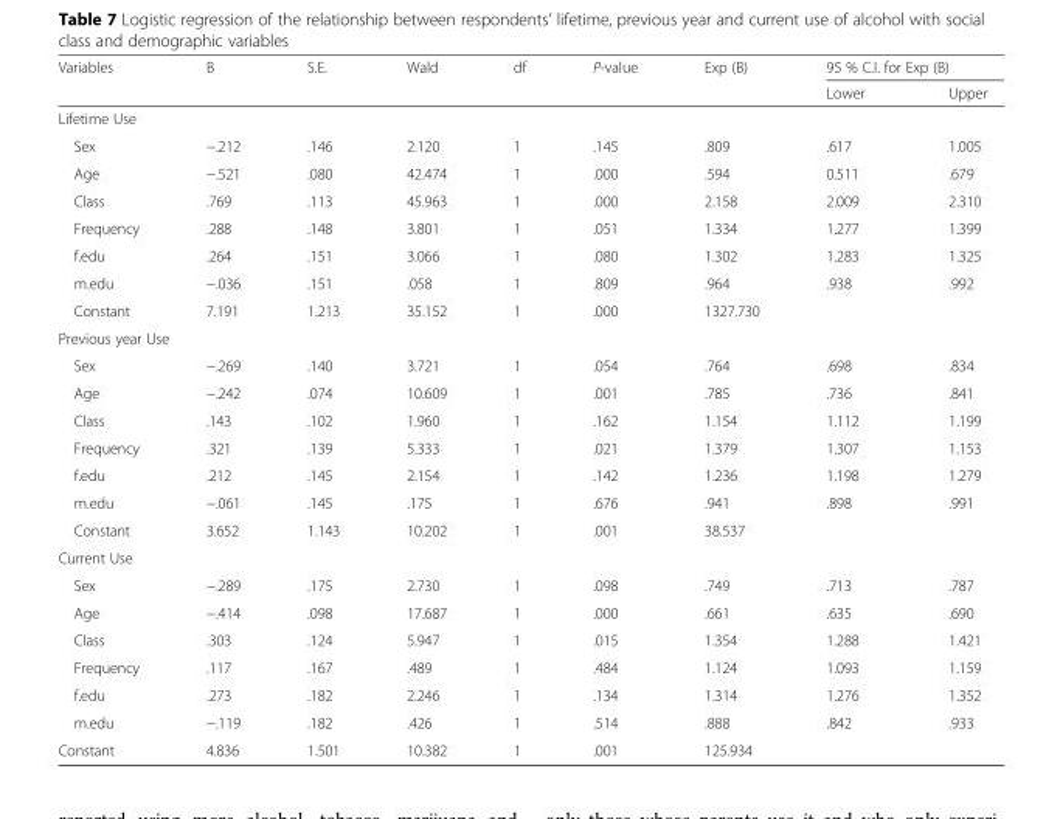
<table><thead><tr><td rowspan="2">Variables</td><td rowspan="2">B</td><td rowspan="2">S.E.</td><td rowspan="2">Wald</td><td rowspan="2">df</td><td rowspan="2">P-value</td><td rowspan="2">Exp (B)</td><td colspan="2">95 % C.I. for Exp (B)</td></tr><tr><td>Lower</td><td>Upper</td></tr></thead><tbody><tr><td colspan="9">Lifetime Use</td></tr><tr><td>Sex</td><td>−.212</td><td>.146</td><td>2.120</td><td>1</td><td>.145</td><td>.809</td><td>.617</td><td>1.005</td></tr><tr><td>Age</td><td>−.521</td><td>.080</td><td>42.474</td><td>1</td><td>.000</td><td>.594</td><td>0.511</td><td>.679</td></tr><tr><td>Class</td><td>.769</td><td>.113</td><td>45.963</td><td>1</td><td>.000</td><td>2.158</td><td>2.009</td><td>2.310</td></tr><tr><td>Frequency</td><td>.288</td><td>.148</td><td>3.801</td><td>1</td><td>.051</td><td>1.334</td><td>1.277</td><td>1.399</td></tr><tr><td>f.edu</td><td>.264</td><td>.151</td><td>3.066</td><td>1</td><td>.080</td><td>1.302</td><td>1.283</td><td>1.325</td></tr><tr><td>m.edu</td><td>−.036</td><td>.151</td><td>.058</td><td>1</td><td>.809</td><td>.964</td><td>.938</td><td>.992</td></tr><tr><td>Constant</td><td>7.191</td><td>1.213</td><td>35.152</td><td>1</td><td>.000</td><td>1327.730</td><td></td><td></td></tr><tr><td colspan="9">Previous year Use</td></tr><tr><td>Sex</td><td>−.269</td><td>.140</td><td>3.721</td><td>1</td><td>.054</td><td>.764</td><td>.698</td><td>.834</td></tr><tr><td>Age</td><td>−.242</td><td>.074</td><td>10.609</td><td>1</td><td>.001</td><td>.785</td><td>.736</td><td>.841</td></tr><tr><td>Class</td><td>.143</td><td>.102</td><td>1.960</td><td>1</td><td>.162</td><td>1.154</td><td>1.112</td><td>1.199</td></tr><tr><td>Frequency</td><td>.321</td><td>.139</td><td>5.333</td><td>1</td><td>.021</td><td>1.379</td><td>1.307</td><td>1.153</td></tr><tr><td>f.edu</td><td>.212</td><td>.145</td><td>2.154</td><td>1</td><td>.142</td><td>1.236</td><td>1.198</td><td>1.279</td></tr><tr><td>m.edu</td><td>−.061</td><td>.145</td><td>.175</td><td>1</td><td>.676</td><td>.941</td><td>.898</td><td>.991</td></tr><tr><td>Constant</td><td>3.652</td><td>1.143</td><td>10.202</td><td>1</td><td>.001</td><td>38.537</td><td></td><td></td></tr><tr><td colspan="9">Current Use</td></tr><tr><td>Sex</td><td>−.289</td><td>.175</td><td>2.730</td><td>1</td><td>.098</td><td>.749</td><td>.713</td><td>.787</td></tr><tr><td>Age</td><td>−.414</td><td>.098</td><td>17.687</td><td>1</td><td>.000</td><td>.661</td><td>.635</td><td>.690</td></tr><tr><td>Class</td><td>.303</td><td>.124</td><td>5.947</td><td>1</td><td>.015</td><td>1.354</td><td>1.288</td><td>1.421</td></tr><tr><td>Frequency</td><td>.117</td><td>.167</td><td>.489</td><td>1</td><td>.484</td><td>1.124</td><td>1.093</td><td>1.159</td></tr><tr><td>f.edu</td><td>.273</td><td>.182</td><td>2.246</td><td>1</td><td>.134</td><td>1.314</td><td>1.276</td><td>1.352</td></tr><tr><td>m.edu</td><td>−.119</td><td>.182</td><td>.426</td><td>1</td><td>.514</td><td>.888</td><td>.842</td><td>.933</td></tr><tr><td>Constant</td><td>4.836</td><td>1.501</td><td>10.382</td><td>1</td><td>.001</td><td>125.934</td><td></td><td></td></tr></tbody></table>